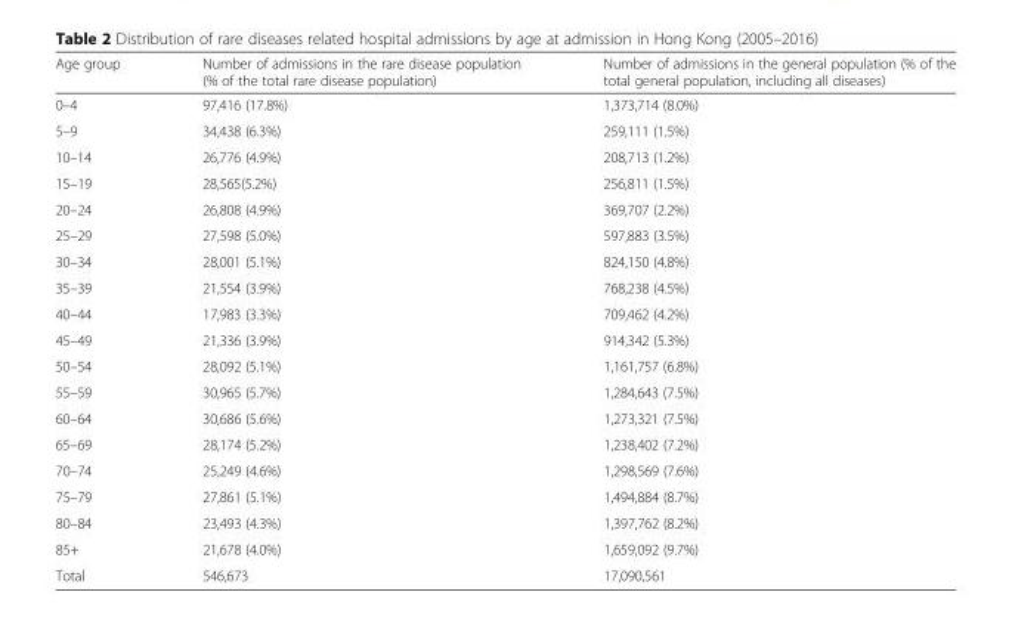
<table><thead><tr><td>Age group</td><td>Number of admissions in the rare disease population (% of the total rare disease population)</td><td>Number of admissions in the general population (% of the total general population, including all diseases)</td></tr></thead><tbody><tr><td>0–4</td><td>97,416 (17.8%)</td><td>1,373,714 (8.0%)</td></tr><tr><td>5–9</td><td>34,438 (6.3%)</td><td>259,111 (1.5%)</td></tr><tr><td>10–14</td><td>26,776 (4.9%)</td><td>208,713 (1.2%)</td></tr><tr><td>15–19</td><td>28,565(5.2%)</td><td>256,811 (1.5%)</td></tr><tr><td>20–24</td><td>26,808 (4.9%)</td><td>369,707 (2.2%)</td></tr><tr><td>25–29</td><td>27,598 (5.0%)</td><td>597,883 (3.5%)</td></tr><tr><td>30–34</td><td>28,001 (5.1%)</td><td>824,150 (4.8%)</td></tr><tr><td>35–39</td><td>21,554 (3.9%)</td><td>768,238 (4.5%)</td></tr><tr><td>40–44</td><td>17,983 (3.3%)</td><td>709,462 (4.2%)</td></tr><tr><td>45–49</td><td>21,336 (3.9%)</td><td>914,342 (5.3%)</td></tr><tr><td>50–54</td><td>28,092 (5.1%)</td><td>1,161,757 (6.8%)</td></tr><tr><td>55–59</td><td>30,965 (5.7%)</td><td>1,284,643 (7.5%)</td></tr><tr><td>60–64</td><td>30,686 (5.6%)</td><td>1,273,321 (7.5%)</td></tr><tr><td>65–69</td><td>28,174 (5.2%)</td><td>1,238,402 (7.2%)</td></tr><tr><td>70–74</td><td>25,249 (4.6%)</td><td>1,298,569 (7.6%)</td></tr><tr><td>75–79</td><td>27,861 (5.1%)</td><td>1,494,884 (8.7%)</td></tr><tr><td>80–84</td><td>23,493 (4.3%)</td><td>1,397,762 (8.2%)</td></tr><tr><td>85+</td><td>21,678 (4.0%)</td><td>1,659,092 (9.7%)</td></tr><tr><td>Total</td><td>546,673</td><td>17,090,561</td></tr></tbody></table>